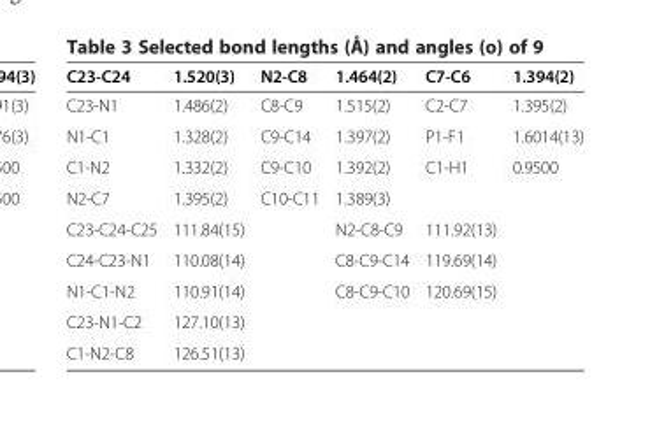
<table><thead><tr><td>C23-C24</td><td>1.520(3)</td><td>N2-C8</td><td>1.464(2)</td><td>C7-C6</td><td>1.394(2)</td></tr></thead><tbody><tr><td>C23-N1</td><td>1.486(2)</td><td>C8-C9</td><td>1.515(2)</td><td>C2-C7</td><td>1.395(2)</td></tr><tr><td>N1-C1</td><td>1.328(2)</td><td>C9-C14</td><td>1.397(2)</td><td>P1-F1</td><td>1.6014(13)</td></tr><tr><td>C1-N2</td><td>1.332(2)</td><td>C9-C10</td><td>1.392(2)</td><td>C1-H1</td><td>0.9500</td></tr><tr><td>N2-C7</td><td>1.395(2)</td><td>C10-C11</td><td>1.389(3)</td><td></td><td></td></tr><tr><td>C23-C24-C25</td><td>111.84(15)</td><td></td><td>N2-C8-C9</td><td>111.92(13)</td><td></td></tr><tr><td>C24-C23-N1</td><td>110.08(14)</td><td></td><td>C8-C9-C14</td><td>119.69(14)</td><td></td></tr><tr><td>N1-C1-N2</td><td>110.91(14)</td><td></td><td>C8-C9-C10</td><td>120.69(15)</td><td></td></tr><tr><td>C23-N1-C2</td><td>127.10(13)</td><td></td><td></td><td></td><td></td></tr><tr><td>C1-N2-C8</td><td>126.51(13)</td><td></td><td></td><td></td><td></td></tr></tbody></table>